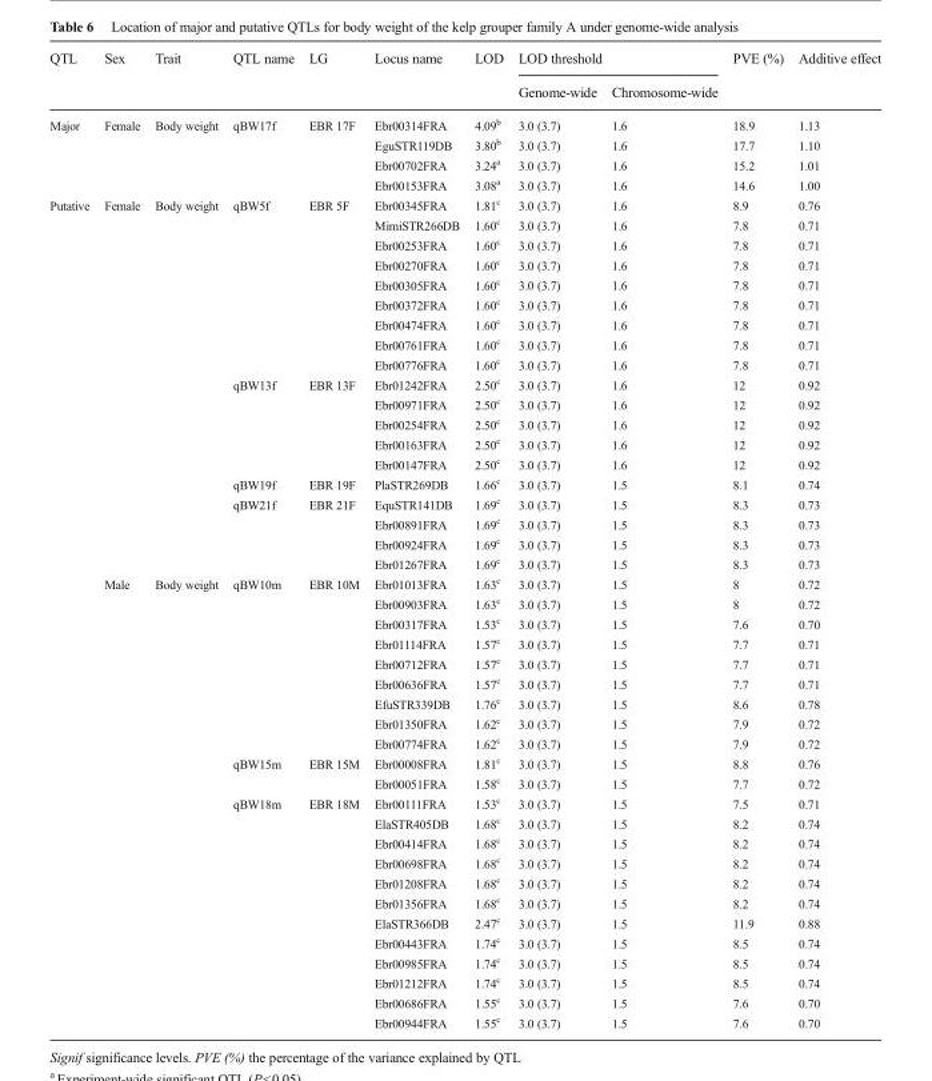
<table><thead><tr><td rowspan="2">QTL</td><td rowspan="2">Sex</td><td rowspan="2">Trait</td><td rowspan="2">QTL name</td><td rowspan="2">LG</td><td rowspan="2">Locus name</td><td rowspan="2">LOD</td><td colspan="2">LOD threshold</td><td rowspan="2">PVE (%)</td><td rowspan="2">Additive effect</td></tr><tr><td>Genome-wide</td><td>Chromosome-wide</td></tr></thead><tbody><tr><td rowspan="4">Major</td><td>Female</td><td>Body weight</td><td>qBW17f</td><td>EBR 17F</td><td>Ebr00314FRA</td><td>4.09<sup>b</sup></td><td>3.0 (3.7)</td><td>1.6</td><td>18.9</td><td>1.13</td></tr><tr><td></td><td></td><td></td><td></td><td>EguSTR119DB</td><td>3.80<sup>b</sup></td><td>3.0 (3.7)</td><td>1.6</td><td>17.7</td><td>1.10</td></tr><tr><td></td><td></td><td></td><td></td><td>Ebr00702FRA</td><td>3.24<sup>a</sup></td><td>3.0 (3.7)</td><td>1.6</td><td>15.2</td><td>1.01</td></tr><tr><td></td><td></td><td></td><td></td><td>Ebr00153FRA</td><td>3.08<sup>a</sup></td><td>3.0 (3.7)</td><td>1.6</td><td>14.6</td><td>1.00</td></tr><tr><td rowspan="42">Putative</td><td>Female</td><td>Body weight</td><td>qBW5f</td><td>EBR 5F</td><td>Ebr00345FRA</td><td>1.81<sup>c</sup></td><td>3.0 (3.7)</td><td>1.6</td><td>8.9</td><td>0.76</td></tr><tr><td></td><td></td><td></td><td></td><td>MimiSTR266DB</td><td>1.60<sup>c</sup></td><td>3.0 (3.7)</td><td>1.6</td><td>7.8</td><td>0.71</td></tr><tr><td></td><td></td><td></td><td></td><td>Ebr00253FRA</td><td>1.60<sup>c</sup></td><td>3.0 (3.7)</td><td>1.6</td><td>7.8</td><td>0.71</td></tr><tr><td></td><td></td><td></td><td></td><td>Ebr00270FRA</td><td>1.60<sup>c</sup></td><td>3.0 (3.7)</td><td>1.6</td><td>7.8</td><td>0.71</td></tr><tr><td></td><td></td><td></td><td></td><td>Ebr00305FRA</td><td>1.60<sup>c</sup></td><td>3.0 (3.7)</td><td>1.6</td><td>7.8</td><td>0.71</td></tr><tr><td></td><td></td><td></td><td></td><td>Ebr00372FRA</td><td>1.60<sup>c</sup></td><td>3.0 (3.7)</td><td>1.6</td><td>7.8</td><td>0.71</td></tr><tr><td></td><td></td><td></td><td></td><td>Ebr00474FRA</td><td>1.60<sup>c</sup></td><td>3.0 (3.7)</td><td>1.6</td><td>7.8</td><td>0.71</td></tr><tr><td></td><td></td><td></td><td></td><td>Ebr00761FRA</td><td>1.60<sup>c</sup></td><td>3.0 (3.7)</td><td>1.6</td><td>7.8</td><td>0.71</td></tr><tr><td></td><td></td><td></td><td></td><td>Ebr00776FRA</td><td>1.60<sup>c</sup></td><td>3.0 (3.7)</td><td>1.6</td><td>7.8</td><td>0.71</td></tr><tr><td></td><td></td><td>qBW13f</td><td>EBR 13F</td><td>Ebr01242FRA</td><td>2.50<sup>c</sup></td><td>3.0 (3.7)</td><td>1.6</td><td>12</td><td>0.92</td></tr><tr><td></td><td></td><td></td><td></td><td>Ebr00971FRA</td><td>2.50<sup>c</sup></td><td>3.0 (3.7)</td><td>1.6</td><td>12</td><td>0.92</td></tr><tr><td></td><td></td><td></td><td></td><td>Ebr00254FRA</td><td>2.50<sup>c</sup></td><td>3.0 (3.7)</td><td>1.6</td><td>12</td><td>0.92</td></tr><tr><td></td><td></td><td></td><td></td><td>Ebr00163FRA</td><td>2.50<sup>c</sup></td><td>3.0 (3.7)</td><td>1.6</td><td>12</td><td>0.92</td></tr><tr><td></td><td></td><td></td><td></td><td>Ebr00147FRA</td><td>2.50<sup>c</sup></td><td>3.0 (3.7)</td><td>1.6</td><td>12</td><td>0.92</td></tr><tr><td></td><td></td><td>qBW19f</td><td>EBR 19F</td><td>PlaSTR269DB</td><td>1.66<sup>c</sup></td><td>3.0 (3.7)</td><td>1.5</td><td>8.1</td><td>0.74</td></tr><tr><td></td><td></td><td>qBW21f</td><td>EBR 21F</td><td>EquSTR141DB</td><td>1.69<sup>c</sup></td><td>3.0 (3.7)</td><td>1.5</td><td>8.3</td><td>0.73</td></tr><tr><td></td><td></td><td></td><td></td><td>Ebr00891FRA</td><td>1.69<sup>c</sup></td><td>3.0 (3.7)</td><td>1.5</td><td>8.3</td><td>0.73</td></tr><tr><td></td><td></td><td></td><td></td><td>Ebr00924FRA</td><td>1.69<sup>c</sup></td><td>3.0 (3.7)</td><td>1.5</td><td>8.3</td><td>0.73</td></tr><tr><td></td><td></td><td></td><td></td><td>Ebr01267FRA</td><td>1.69<sup>c</sup></td><td>3.0 (3.7)</td><td>1.5</td><td>8.3</td><td>0.73</td></tr><tr><td>Male</td><td>Body weight</td><td>qBW10m</td><td>EBR 10M</td><td>Ebr01013FRA</td><td>1.63<sup>c</sup></td><td>3.0 (3.7)</td><td>1.5</td><td>8</td><td>0.72</td></tr><tr><td></td><td></td><td></td><td></td><td>Ebr00903FRA</td><td>1.63<sup>c</sup></td><td>3.0 (3.7)</td><td>1.5</td><td>8</td><td>0.72</td></tr><tr><td></td><td></td><td></td><td></td><td>Ebr00317FRA</td><td>1.53<sup>c</sup></td><td>3.0 (3.7)</td><td>1.5</td><td>7.6</td><td>0.70</td></tr><tr><td></td><td></td><td></td><td></td><td>Ebr01114FRA</td><td>1.57<sup>c</sup></td><td>3.0 (3.7)</td><td>1.5</td><td>7.7</td><td>0.71</td></tr><tr><td></td><td></td><td></td><td></td><td>Ebr00712FRA</td><td>1.57<sup>c</sup></td><td>3.0 (3.7)</td><td>1.5</td><td>7.7</td><td>0.71</td></tr><tr><td></td><td></td><td></td><td></td><td>Ebr00636FRA</td><td>1.57<sup>c</sup></td><td>3.0 (3.7)</td><td>1.5</td><td>7.7</td><td>0.71</td></tr><tr><td></td><td></td><td></td><td></td><td>EfuSTR339DB</td><td>1.76<sup>c</sup></td><td>3.0 (3.7)</td><td>1.5</td><td>8.6</td><td>0.78</td></tr><tr><td></td><td></td><td></td><td></td><td>Ebr01350FRA</td><td>1.62<sup>c</sup></td><td>3.0 (3.7)</td><td>1.5</td><td>7.9</td><td>0.72</td></tr><tr><td></td><td></td><td></td><td></td><td>Ebr00774FRA</td><td>1.62<sup>c</sup></td><td>3.0 (3.7)</td><td>1.5</td><td>7.9</td><td>0.72</td></tr><tr><td></td><td></td><td>qBW15m</td><td>EBR 15M</td><td>Ebr00008FRA</td><td>1.81<sup>c</sup></td><td>3.0 (3.7)</td><td>1.5</td><td>8.8</td><td>0.76</td></tr><tr><td></td><td></td><td></td><td></td><td>Ebr00051FRA</td><td>1.58<sup>c</sup></td><td>3.0 (3.7)</td><td>1.5</td><td>7.7</td><td>0.72</td></tr><tr><td></td><td></td><td>qBW18m</td><td>EBR 18M</td><td>Ebr00111FRA</td><td>1.53<sup>c</sup></td><td>3.0 (3.7)</td><td>1.5</td><td>7.5</td><td>0.71</td></tr><tr><td></td><td></td><td></td><td></td><td>ElaSTR405DB</td><td>1.68<sup>c</sup></td><td>3.0 (3.7)</td><td>1.5</td><td>8.2</td><td>0.74</td></tr><tr><td></td><td></td><td></td><td></td><td>Ebr00414FRA</td><td>1.68<sup>c</sup></td><td>3.0 (3.7)</td><td>1.5</td><td>8.2</td><td>0.74</td></tr><tr><td></td><td></td><td></td><td></td><td>Ebr00698FRA</td><td>1.68<sup>c</sup></td><td>3.0 (3.7)</td><td>1.5</td><td>8.2</td><td>0.74</td></tr><tr><td></td><td></td><td></td><td></td><td>Ebr01208FRA</td><td>1.68<sup>c</sup></td><td>3.0 (3.7)</td><td>1.5</td><td>8.2</td><td>0.74</td></tr><tr><td></td><td></td><td></td><td></td><td>Ebr01356FRA</td><td>1.68<sup>c</sup></td><td>3.0 (3.7)</td><td>1.5</td><td>8.2</td><td>0.74</td></tr><tr><td></td><td></td><td></td><td></td><td>ElaSTR366DB</td><td>2.47<sup>c</sup></td><td>3.0 (3.7)</td><td>1.5</td><td>11.9</td><td>0.88</td></tr><tr><td></td><td></td><td></td><td></td><td>Ebr00443FRA</td><td>1.74<sup>c</sup></td><td>3.0 (3.7)</td><td>1.5</td><td>8.5</td><td>0.74</td></tr><tr><td></td><td></td><td></td><td></td><td>Ebr00985FRA</td><td>1.74<sup>c</sup></td><td>3.0 (3.7)</td><td>1.5</td><td>8.5</td><td>0.74</td></tr><tr><td></td><td></td><td></td><td></td><td>Ebr01212FRA</td><td>1.74<sup>c</sup></td><td>3.0 (3.7)</td><td>1.5</td><td>8.5</td><td>0.74</td></tr><tr><td></td><td></td><td></td><td></td><td>Ebr00686FRA</td><td>1.55<sup>c</sup></td><td>3.0 (3.7)</td><td>1.5</td><td>7.6</td><td>0.70</td></tr><tr><td></td><td></td><td></td><td></td><td>Ebr00944FRA</td><td>1.55<sup>c</sup></td><td>3.0 (3.7)</td><td>1.5</td><td>7.6</td><td>0.70</td></tr></tbody></table>